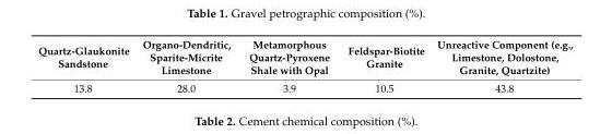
<table><thead><tr><td>Quartz-Glaukonite Sandstone</td><td>Organo-Dendritic, Sparite-Micrite Limestone</td><td>Metamorphous Quartz-Pyroxene Shale with Opal</td><td>Feldspar-Biotite Granite</td><td>Unreactive Component (e.g., Limestone, Dolostone, Granite, Quartzite)</td></tr></thead><tbody><tr><td>13.8</td><td>28.0</td><td>3.9</td><td>10.5</td><td>43.8</td></tr></tbody></table>